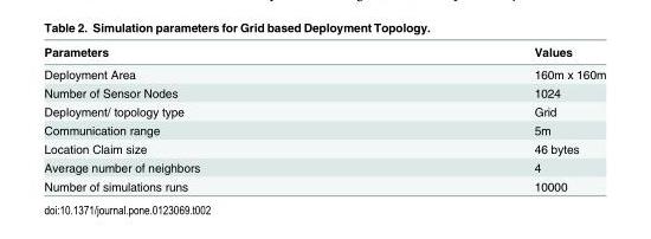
<table><thead><tr><td>Parameters</td><td>Values</td></tr></thead><tbody><tr><td>Deployment Area</td><td>160m x 160m</td></tr><tr><td>Number of Sensor Nodes</td><td>1024</td></tr><tr><td>Deployment/ topology type</td><td>Grid</td></tr><tr><td>Communication range</td><td>5m</td></tr><tr><td>Location Claim size</td><td>46 bytes</td></tr><tr><td>Average number of neighbors</td><td>4</td></tr><tr><td>Number of simulations runs</td><td>10000</td></tr></tbody></table>